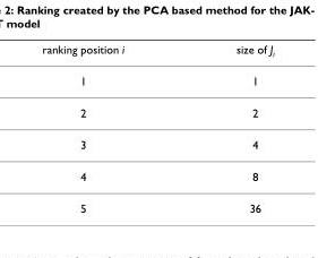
<table><thead><tr><td>ranking position i</td><td>size of Ji</td></tr></thead><tbody><tr><td>1</td><td>1</td></tr><tr><td>2</td><td>2</td></tr><tr><td>3</td><td>4</td></tr><tr><td>4</td><td>8</td></tr><tr><td>5</td><td>36</td></tr></tbody></table>